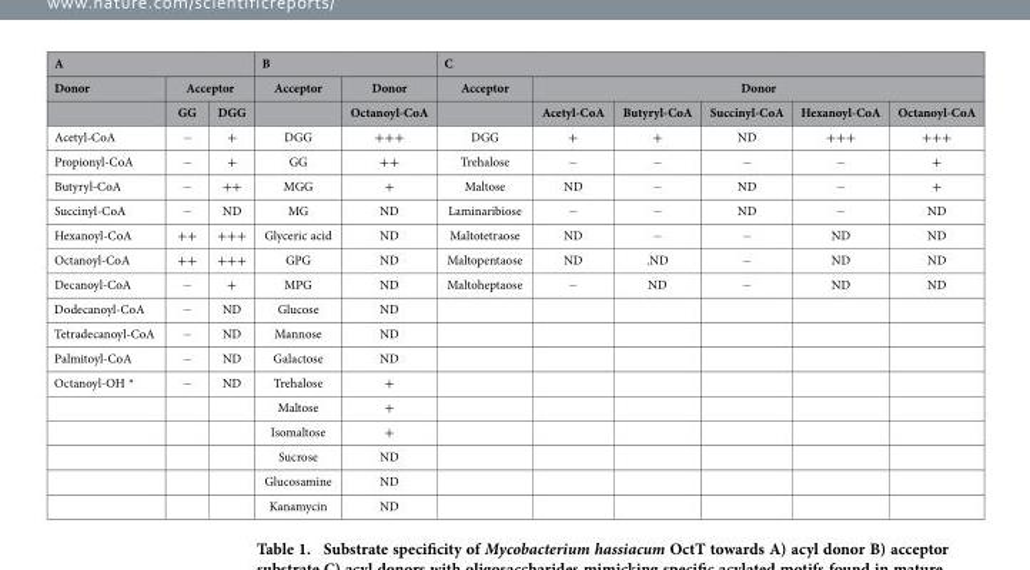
<table><thead><tr><td colspan="3">A</td><td colspan="2">B</td><td colspan="6">C</td></tr><tr><td rowspan="2">Donor</td><td colspan="2">Acceptor</td><td rowspan="2">Acceptor</td><td rowspan="2">Donor Octanoyl-CoA</td><td rowspan="2">Acceptor</td><td colspan="5">Donor</td></tr><tr><td>GG</td><td>DGG</td><td>Acetyl-CoA</td><td>Butyryl-CoA</td><td>Succinyl-CoA</td><td>Hexanoyl-CoA</td><td>Octanoyl-CoA</td></tr></thead><tbody><tr><td>Acetyl-CoA</td><td>−</td><td>+</td><td>DGG</td><td>+++</td><td>DGG</td><td>+</td><td>+</td><td>ND</td><td>+++</td><td>+++</td></tr><tr><td>Propionyl-CoA</td><td>−</td><td>+</td><td>GG</td><td>++</td><td>Trehalose</td><td>−</td><td>−</td><td>−</td><td>−</td><td>+</td></tr><tr><td>Butyryl-CoA</td><td>−</td><td>++</td><td>MGG</td><td>+</td><td>Maltose</td><td>ND</td><td>−</td><td>ND</td><td>−</td><td>+</td></tr><tr><td>Succinyl-CoA</td><td>−</td><td>ND</td><td>MG</td><td>ND</td><td>Laminaribiose</td><td>−</td><td>−</td><td>ND</td><td>−</td><td>ND</td></tr><tr><td>Hexanoyl-CoA</td><td>++</td><td>+++</td><td>Glyceric acid</td><td>ND</td><td>Maltotetraose</td><td>ND</td><td>−</td><td>−</td><td>ND</td><td>ND</td></tr><tr><td>Octanoyl-CoA</td><td>++</td><td>+++</td><td>GPG</td><td>ND</td><td>Maltopentaose</td><td>ND</td><td>.ND</td><td>−</td><td>ND</td><td>ND</td></tr><tr><td>Decanoyl-CoA</td><td>−</td><td>+</td><td>MPG</td><td>ND</td><td>Maltoheptaose</td><td>−</td><td>ND</td><td>−</td><td>ND</td><td>ND</td></tr><tr><td>Dodecanoyl-CoA</td><td>−</td><td>ND</td><td>Glucose</td><td>ND</td><td></td><td></td><td></td><td></td><td></td><td></td></tr><tr><td>Tetradecanoyl-CoA</td><td>−</td><td>ND</td><td>Mannose</td><td>ND</td><td></td><td></td><td></td><td></td><td></td><td></td></tr><tr><td>Palmitoyl-CoA</td><td>−</td><td>ND</td><td>Galactose</td><td>ND</td><td></td><td></td><td></td><td></td><td></td><td></td></tr><tr><td rowspan="6">Octanoyl-OH *</td><td>−</td><td>ND</td><td>Trehalose</td><td>+</td><td></td><td></td><td></td><td></td><td></td><td></td></tr><tr><td></td><td></td><td>Maltose</td><td>+</td><td></td><td></td><td></td><td></td><td></td><td></td></tr><tr><td></td><td></td><td>Isomaltose</td><td>+</td><td></td><td></td><td></td><td></td><td></td><td></td></tr><tr><td></td><td></td><td>Sucrose</td><td>ND</td><td></td><td></td><td></td><td></td><td></td><td></td></tr><tr><td></td><td></td><td>Glucosamine</td><td>ND</td><td></td><td></td><td></td><td></td><td></td><td></td></tr><tr><td></td><td></td><td>Kanamycin</td><td>ND</td><td></td><td></td><td></td><td></td><td></td><td></td></tr></tbody></table>